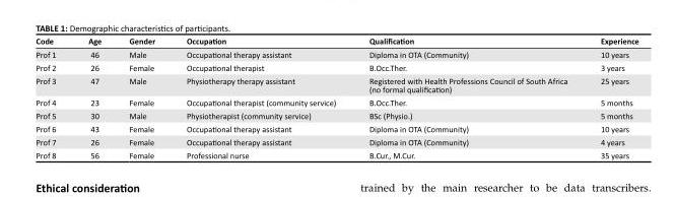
<table><thead><tr><td>Code</td><td>Age</td><td>Gender</td><td>Occupation</td><td>Qualification</td><td>Experience</td></tr></thead><tbody><tr><td>Prof 1</td><td>46</td><td>Male</td><td>Occupational therapy assistant</td><td>Diploma in OTA (Community)</td><td>10 years</td></tr><tr><td>Prof 2</td><td>26</td><td>Female</td><td>Occupational therapist</td><td>B.Occ.Ther.</td><td>3 years</td></tr><tr><td>Prof 3</td><td>47</td><td>Male</td><td>Physiotherapy therapy assistant</td><td>Registered with Health Professions Council of South Africa (no formal qualification)</td><td>25 years</td></tr><tr><td>Prof 4</td><td>23</td><td>Female</td><td>Occupational therapist (community service)</td><td>B.Occ.Ther.</td><td>5 months</td></tr><tr><td>Prof 5</td><td>30</td><td>Male</td><td>Physiotherapist (community service)</td><td>BSc (Physio.)</td><td>5 months</td></tr><tr><td>Prof 6</td><td>43</td><td>Female</td><td>Occupational therapy assistant</td><td>Diploma in OTA (Community)</td><td>10 years</td></tr><tr><td>Prof 7</td><td>26</td><td>Female</td><td>Occupational therapy assistant</td><td>Diploma in OTA (Community)</td><td>4 years</td></tr><tr><td>Prof 8</td><td>56</td><td>Female</td><td>Professional nurse</td><td>B.Cur., M.Cur.</td><td>35 years</td></tr></tbody></table>